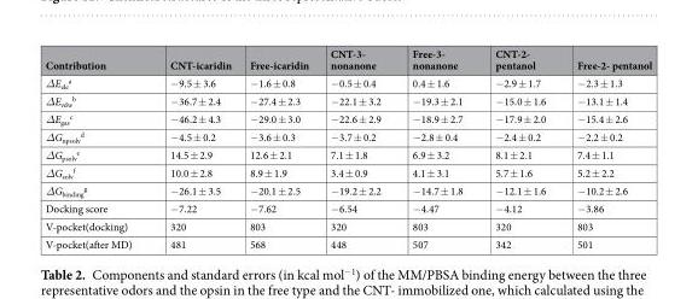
<table><thead><tr><td>Contribution</td><td>CNT-icaridin</td><td>Free-icaridin</td><td>CNT-3- nonanone</td><td>Free-3- nonanone</td><td>CNT-2- pentanol</td><td>Free-2- pentanol</td></tr></thead><tbody><tr><td>ΔE<sub>ele</sub> <sup>a</sup></td><td>−9.5 ± 3.6</td><td>−1.6 ± 0.8</td><td>−0.5 ± 0.4</td><td>0.4 ± 1.6</td><td>−2.9 ± 1.7</td><td>−2.3 ± 1.3</td></tr><tr><td>ΔE<sub>vdw</sub> <sup>b</sup></td><td>−36.7 ± 2.4</td><td>−27.4 ± 2.3</td><td>−22.1 ± 3.2</td><td>−19.3 ± 2.1</td><td>−15.0 ± 1.6</td><td>−13.1 ± 1.4</td></tr><tr><td>ΔE<sub>gas</sub> <sup>c</sup></td><td>−46.2 ± 4.3</td><td>−29.0 ± 3.0</td><td>−22.6 ± 2.9</td><td>−18.9 ± 2.7</td><td>−17.9 ± 2.0</td><td>−15.4 ± 2.6</td></tr><tr><td>ΔG<sub>npsolv</sub> <sup>d</sup></td><td>−4.5 ± 0.2</td><td>−3.6 ± 0.3</td><td>−3.7 ± 0.2</td><td>−2.8 ± 0.4</td><td>−2.4 ± 0.2</td><td>−2.2 ± 0.2</td></tr><tr><td>ΔG<sub>psolv</sub> <sup>e</sup></td><td>14.5 ± 2.9</td><td>12.6 ± 2.1</td><td>7.1 ± 1.8</td><td>6.9 ± 3.2</td><td>8.1 ± 2.1</td><td>7.4 ± 1.1</td></tr><tr><td>ΔG<sub>solv</sub> <sup>f</sup></td><td>10.0 ± 2.8</td><td>8.9 ± 1.9</td><td>3.4 ± 0.9</td><td>4.1 ± 3.1</td><td>5.7 ± 1.6</td><td>5.2 ± 2.2</td></tr><tr><td>ΔG<sub>binding</sub> <sup>g</sup></td><td>−26.1 ± 3.5</td><td>−20.1 ± 2.5</td><td>−19.2 ± 2.2</td><td>−14.7 ± 1.8</td><td>−12.1 ± 1.6</td><td>−10.2 ± 2.6</td></tr><tr><td>Docking score</td><td>−7.22</td><td>−7.62</td><td>−6.54</td><td>−4.47</td><td>−4.12</td><td>−3.86</td></tr><tr><td>V-pocket(docking)</td><td>320</td><td>803</td><td>320</td><td>803</td><td>320</td><td>803</td></tr><tr><td>V-pocket(after MD)</td><td>481</td><td>568</td><td>448</td><td>507</td><td>342</td><td>501</td></tr></tbody></table>